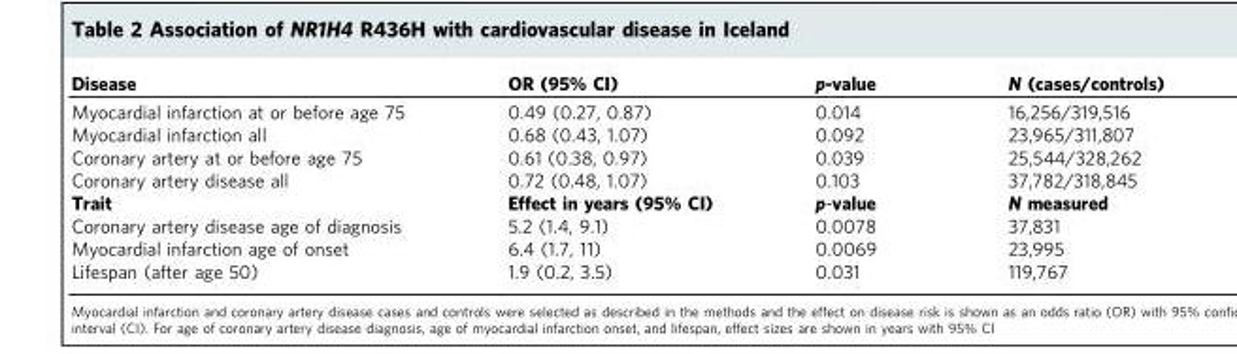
<table><thead><tr><td>Disease</td><td>OR (95% CI)</td><td>p-value</td><td>N (cases/controls)</td></tr></thead><tbody><tr><td>Myocardial infarction at or before age 75</td><td>0.49 (0.27, 0.87)</td><td>0.014</td><td>16,256/319,516</td></tr><tr><td>Myocardial infarction all</td><td>0.68 (0.43, 1.07)</td><td>0.092</td><td>23,965/311,807</td></tr><tr><td>Coronary artery at or before age 75</td><td>0.61 (0.38, 0.97)</td><td>0.039</td><td>25,544/328,262</td></tr><tr><td>Coronary artery disease all</td><td>0.72 (0.48, 1.07)</td><td>0.103</td><td>37,782/318,845</td></tr><tr><td>Trait</td><td>Effect in years (95% CI)</td><td>p-value</td><td>N measured</td></tr><tr><td>Coronary artery disease age of diagnosis</td><td>5.2 (1.4, 9.1)</td><td>0.0078</td><td>37,831</td></tr><tr><td>Myocardial infarction age of onset</td><td>6.4 (1.7, 11)</td><td>0.0069</td><td>23,995</td></tr><tr><td>Lifespan (after age 50)</td><td>1.9 (0.2, 3.5)</td><td>0.031</td><td>119,767</td></tr></tbody></table>